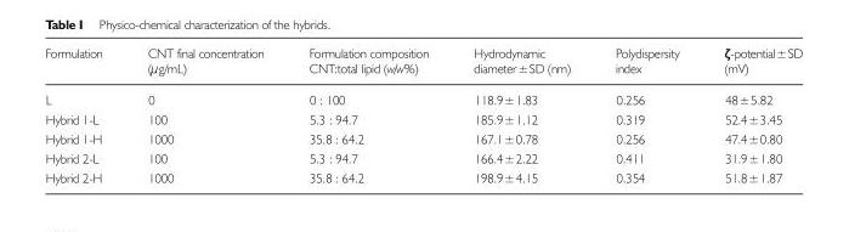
<table><thead><tr><td>Formulation</td><td>CNT final concentration (μg/mL)</td><td>Formulation composition CNT:total lipid (w/w%)</td><td>Hydrodynamic diameter±SD (nm)</td><td>Polydispersity index</td><td>ζ-potential±SD (mV)</td></tr></thead><tbody><tr><td>L</td><td>0</td><td>0 : 100</td><td>118.9±1.83</td><td>0.256</td><td>48±5.82</td></tr><tr><td>Hybrid 1-L</td><td>100</td><td>5.3 : 94.7</td><td>185.9±1.12</td><td>0.319</td><td>52.4±3.45</td></tr><tr><td>Hybrid 1-H</td><td>1000</td><td>35.8 : 64.2</td><td>167.1±0.78</td><td>0.256</td><td>47.4±0.80</td></tr><tr><td>Hybrid 2-L</td><td>100</td><td>5.3 : 94.7</td><td>166.4±2.22</td><td>0.411</td><td>31.9±1.80</td></tr><tr><td>Hybrid 2-H</td><td>1000</td><td>35.8 : 64.2</td><td>198.9±4.15</td><td>0.354</td><td>51.8±1.87</td></tr></tbody></table>